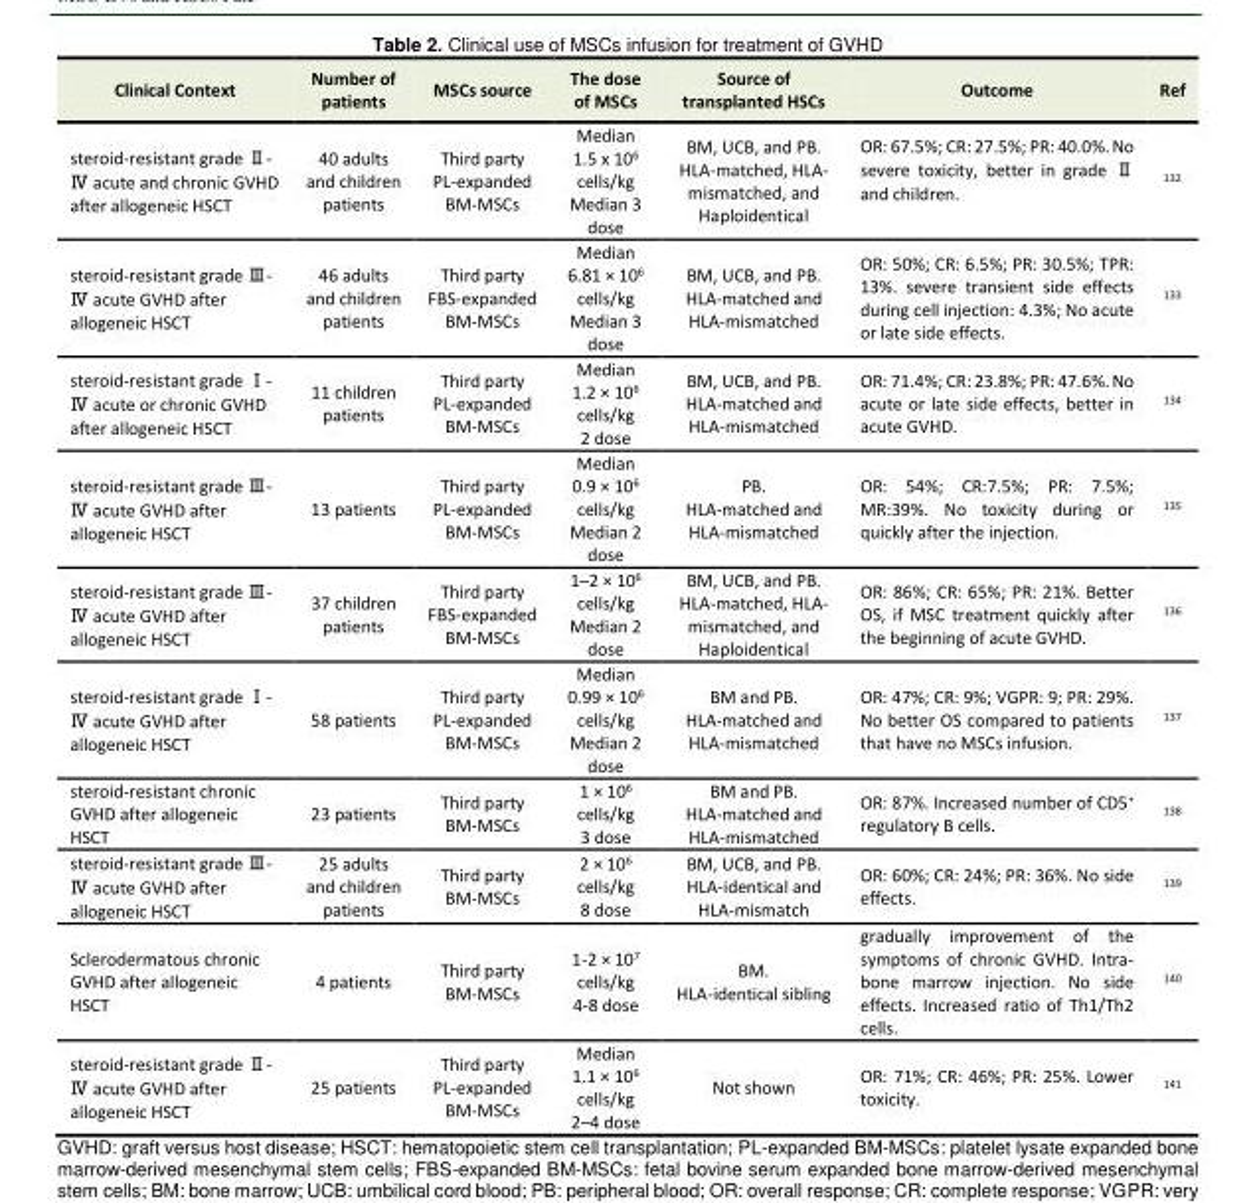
<table><tbody><tr><td>Clinical Context</td><td>Number of patients</td><td>MSCs source</td><td>The dose of MSCs</td><td>Source of transplanted HSCs</td><td>Outcome</td><td>Ref</td></tr><tr><td>steroid-resistant grade Ⅱ- Ⅳ acute and chronic GVHD after allogeneic HSCT</td><td>40 adults and children patients</td><td>Third party PL-expanded BM-MSCs</td><td>Median 1.5 x 10<sup>6</sup> cells/kg Median 3 dose</td><td>BM, UCB, and PB. HLA-matched, HLA- mismatched, and Haploidentical</td><td>OR: 67.5%; CR: 27.5%; PR: 40.0%. No severe toxicity, better in grade Ⅱ and children.</td><td><sup>132</sup></td></tr><tr><td>steroid-resistant grade Ⅲ- Ⅳ acute GVHD after allogeneic HSCT</td><td>46 adults and children patients</td><td>Third party FBS-expanded BM-MSCs</td><td>Median 6.81 × 10<sup>6</sup> cells/kg Median 3 dose</td><td>BM, UCB, and PB. HLA-matched and HLA-mismatched</td><td>OR: 50%; CR: 6.5%; PR: 30.5%; TPR: 13%. severe transient side effects during cell injection: 4.3%; No acute or late side effects.</td><td><sup>133</sup></td></tr><tr><td>steroid-resistant grade Ⅰ- Ⅳ acute or chronic GVHD after allogeneic HSCT</td><td>11 children patients</td><td>Third party PL-expanded BM-MSCs</td><td>Median 1.2 × 10<sup>6</sup> cells/kg 2 dose</td><td>BM, UCB, and PB. HLA-matched and HLA-mismatched</td><td>OR: 71.4%; CR: 23.8%; PR: 47.6%. No acute or late side effects, better in acute GVHD.</td><td><sup>134</sup></td></tr><tr><td>steroid-resistant grade Ⅲ- Ⅳ acute GVHD after allogeneic HSCT</td><td>13 patients</td><td>Third party PL-expanded BM-MSCs</td><td>Median 0.9 × 10<sup>6</sup> cells/kg Median 2 dose</td><td>PB. HLA-matched and HLA-mismatched</td><td>OR: 54%; CR:7.5%; PR: 7.5%; MR:39%. No toxicity during or quickly after the injection.</td><td><sup>135</sup></td></tr><tr><td>steroid-resistant grade Ⅲ- Ⅳ acute GVHD after allogeneic HSCT</td><td>37 children patients</td><td>Third party FBS-expanded BM-MSCs</td><td>1–2 × 10<sup>6</sup> cells/kg Median 2 dose</td><td>BM, UCB, and PB. HLA-matched, HLA- mismatched, and Haploidentical</td><td>OR: 86%; CR: 65%; PR: 21%. Better OS, if MSC treatment quickly after the beginning of acute GVHD.</td><td><sup>136</sup></td></tr><tr><td>steroid-resistant grade Ⅰ- Ⅳ acute GVHD after allogeneic HSCT</td><td>58 patients</td><td>Third party PL-expanded BM-MSCs</td><td>Median 0.99 × 10<sup>6</sup> cells/kg Median 2 dose</td><td>BM and PB. HLA-matched and HLA-mismatched</td><td>OR: 47%; CR: 9%; VGPR: 9; PR: 29%. No better OS compared to patients that have no MSCs infusion.</td><td><sup>137</sup></td></tr><tr><td>steroid-resistant chronic GVHD after allogeneic HSCT</td><td>23 patients</td><td>Third party BM-MSCs</td><td>1 × 10<sup>6</sup> cells/kg 3 dose</td><td>BM and PB. HLA-matched and HLA-mismatched</td><td>OR: 87%. Increased number of CD5<sup>+</sup> regulatory B cells.</td><td><sup>138</sup></td></tr><tr><td>steroid-resistant grade Ⅲ- Ⅳ acute GVHD after allogeneic HSCT</td><td>25 adults and children patients</td><td>Third party BM-MSCs</td><td>2 × 10<sup>6</sup> cells/kg 8 dose</td><td>BM, UCB, and PB. HLA-identical and HLA-mismatch</td><td>OR: 60%; CR: 24%; PR: 36%. No side effects.</td><td><sup>139</sup></td></tr><tr><td>Sclerodermatous chronic GVHD after allogeneic HSCT</td><td>4 patients</td><td>Third party BM-MSCs</td><td>1-2 × 10<sup>7</sup> cells/kg 4-8 dose</td><td>BM. HLA-identical sibling</td><td>gradually improvement of the symptoms of chronic GVHD. Intra- bone marrow injection. No side effects. Increased ratio of Th1/Th2 cells.</td><td><sup>140</sup></td></tr><tr><td>steroid-resistant grade Ⅱ- Ⅳ acute GVHD after allogeneic HSCT</td><td>25 patients</td><td>Third party PL-expanded BM-MSCs</td><td>Median 1.1 × 10<sup>6</sup> cells/kg 2–4 dose</td><td>Not shown</td><td>OR: 71%; CR: 46%; PR: 25%. Lower toxicity.</td><td><sup>141</sup></td></tr></tbody></table>